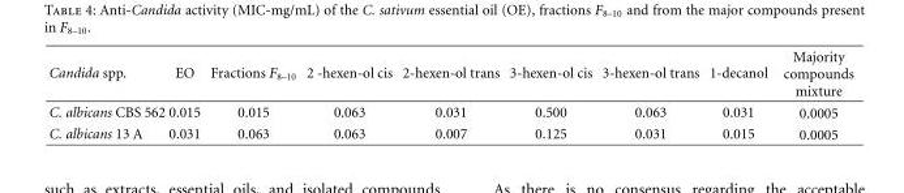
<table><thead><tr><td>Candida spp.</td><td>EO</td><td>Fractions F<sub>8–10</sub></td><td>2 -hexen-ol cis</td><td>2-hexen-ol trans</td><td>3-hexen-ol cis</td><td>3-hexen-ol trans</td><td>1-decanol</td><td>Majority compounds mixture</td></tr></thead><tbody><tr><td>C. albicans CBS 562</td><td>0.015</td><td>0.015</td><td>0.063</td><td>0.031</td><td>0.500</td><td>0.063</td><td>0.031</td><td>0.0005</td></tr><tr><td>C. albicans 13 A</td><td>0.031</td><td>0.063</td><td>0.063</td><td>0.007</td><td>0.125</td><td>0.031</td><td>0.015</td><td>0.0005</td></tr></tbody></table>